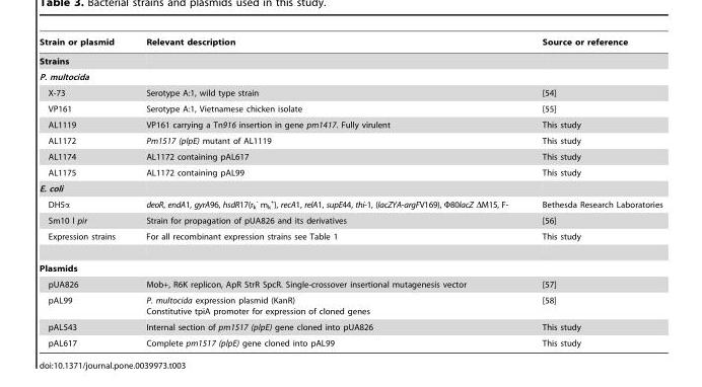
<table><thead><tr><td>Strain or plasmid</td><td>Relevant description</td><td>Source or reference</td></tr></thead><tbody><tr><td colspan="3">Strains</td></tr><tr><td colspan="3">P. multocida</td></tr><tr><td>X-73</td><td>Serotype A:1, wild type strain</td><td>[54]</td></tr><tr><td>VP161</td><td>Serotype A:1, Vietnamese chicken isolate</td><td>[55]</td></tr><tr><td>AL1119</td><td>VP161 carrying a Tn916 insertion in gene pm1417. Fully virulent</td><td>This study</td></tr><tr><td>AL1172</td><td>Pm1517 (plpE) mutant of AL1119</td><td>This study</td></tr><tr><td>AL1174</td><td>AL1172 containing pAL617</td><td>This study</td></tr><tr><td>AL1175</td><td>AL1172 containing pAL99</td><td>This study</td></tr><tr><td colspan="3">E. coli</td></tr><tr><td>DH5α</td><td>deoR, endA1, gyrA96, hsdR17(r<sub>k</sub> <sup>-</sup> m<sub>k</sub> <sup>+</sup>), recA1, relA1, supE44, thi-1, (lacZYA-argFV169), Φ80lacZ ΔM15, F-</td><td>Bethesda Research Laboratories</td></tr><tr><td>Sm10 l pir</td><td>Strain for propagation of pUA826 and its derivatives</td><td>[56]</td></tr><tr><td>Expression strains</td><td>For all recombinant expression strains see Table 1</td><td>This study</td></tr><tr><td colspan="3">Plasmids</td></tr><tr><td>pUA826</td><td>Mob+, R6K replicon, ApR StrR SpcR. Single-crossover insertional mutagenesis vector</td><td>[57]</td></tr><tr><td>pAL99</td><td>P. multocida expression plasmid (KanR) Constitutive tpiA promoter for expression of cloned genes</td><td>[58]</td></tr><tr><td>pAL543</td><td>Internal section of pm1517 (plpE) gene cloned into pUA826</td><td>This study</td></tr><tr><td>pAL617</td><td>Complete pm1517 (plpE) gene cloned into pAL99</td><td>This study</td></tr></tbody></table>